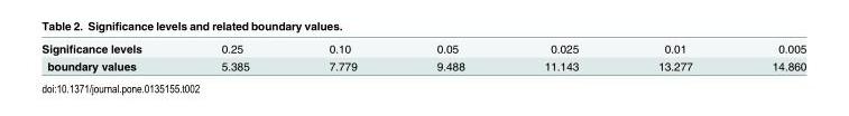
<table><tbody><tr><td>Significance levels</td><td>0.25</td><td>0.10</td><td>0.05</td><td>0.025</td><td>0.01</td><td>0.005</td></tr><tr><td>boundary values</td><td>5.385</td><td>7.779</td><td>9.488</td><td>11.143</td><td>13.277</td><td>14.860</td></tr></tbody></table>